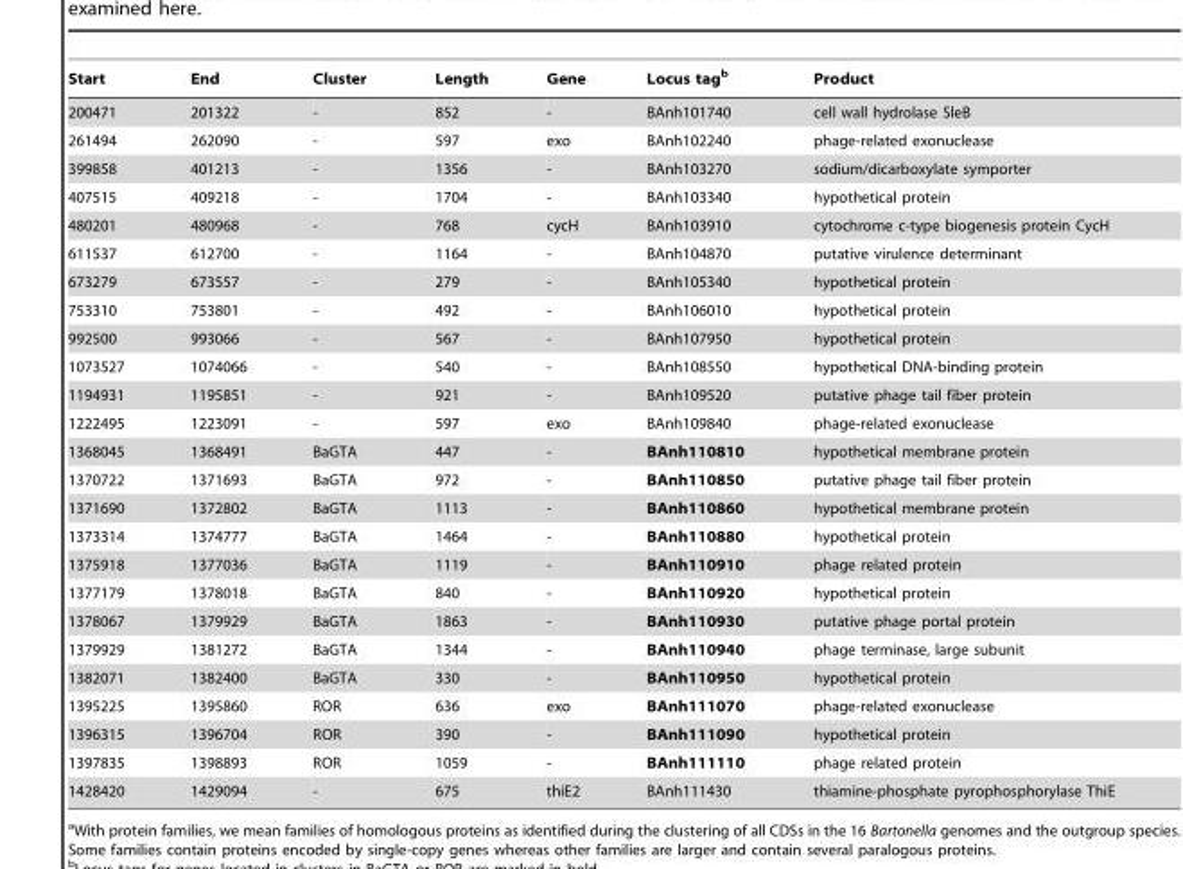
<table><thead><tr><td>Start</td><td>End</td><td>Cluster</td><td>Length</td><td>Gene</td><td>Locus tag<sup>b</sup></td><td>Product</td></tr></thead><tbody><tr><td>200471</td><td>201322</td><td>-</td><td>852</td><td>-</td><td>BAnh101740</td><td>cell wall hydrolase SleB</td></tr><tr><td>261494</td><td>262090</td><td>-</td><td>597</td><td>exo</td><td>BAnh102240</td><td>phage-related exonuclease</td></tr><tr><td>399858</td><td>401213</td><td>-</td><td>1356</td><td>-</td><td>BAnh103270</td><td>sodium/dicarboxylate symporter</td></tr><tr><td>407515</td><td>409218</td><td>-</td><td>1704</td><td>-</td><td>BAnh103340</td><td>hypothetical protein</td></tr><tr><td>480201</td><td>480968</td><td>-</td><td>768</td><td>cycH</td><td>BAnh103910</td><td>cytochrome c-type biogenesis protein CycH</td></tr><tr><td>611537</td><td>612700</td><td>-</td><td>1164</td><td>-</td><td>BAnh104870</td><td>putative virulence determinant</td></tr><tr><td>673279</td><td>673557</td><td>-</td><td>279</td><td>-</td><td>BAnh105340</td><td>hypothetical protein</td></tr><tr><td>753310</td><td>753801</td><td>-</td><td>492</td><td>-</td><td>BAnh106010</td><td>hypothetical protein</td></tr><tr><td>992500</td><td>993066</td><td>-</td><td>567</td><td>-</td><td>BAnh107950</td><td>hypothetical protein</td></tr><tr><td>1073527</td><td>1074066</td><td>-</td><td>540</td><td>-</td><td>BAnh108550</td><td>hypothetical DNA-binding protein</td></tr><tr><td>1194931</td><td>1195851</td><td>-</td><td>921</td><td>-</td><td>BAnh109520</td><td>putative phage tail fiber protein</td></tr><tr><td>1222495</td><td>1223091</td><td>-</td><td>597</td><td>exo</td><td>BAnh109840</td><td>phage-related exonuclease</td></tr><tr><td>1368045</td><td>1368491</td><td>BaGTA</td><td>447</td><td>-</td><td>BAnh110810</td><td>hypothetical membrane protein</td></tr><tr><td>1370722</td><td>1371693</td><td>BaGTA</td><td>972</td><td>-</td><td>BAnh110850</td><td>putative phage tail fiber protein</td></tr><tr><td>1371690</td><td>1372802</td><td>BaGTA</td><td>1113</td><td>-</td><td>BAnh110860</td><td>hypothetical membrane protein</td></tr><tr><td>1373314</td><td>1374777</td><td>BaGTA</td><td>1464</td><td>-</td><td>BAnh110880</td><td>hypothetical protein</td></tr><tr><td>1375918</td><td>1377036</td><td>BaGTA</td><td>1119</td><td>-</td><td>BAnh110910</td><td>phage related protein</td></tr><tr><td>1377179</td><td>1378018</td><td>BaGTA</td><td>840</td><td>-</td><td>BAnh110920</td><td>hypothetical protein</td></tr><tr><td>1378067</td><td>1379929</td><td>BaGTA</td><td>1863</td><td>-</td><td>BAnh110930</td><td>putative phage portal protein</td></tr><tr><td>1379929</td><td>1381272</td><td>BaGTA</td><td>1344</td><td>-</td><td>BAnh110940</td><td>phage terminase, large subunit</td></tr><tr><td>1382071</td><td>1382400</td><td>BaGTA</td><td>330</td><td>-</td><td>BAnh110950</td><td>hypothetical protein</td></tr><tr><td>1395225</td><td>1395860</td><td>ROR</td><td>636</td><td>exo</td><td>BAnh111070</td><td>phage-related exonuclease</td></tr><tr><td>1396315</td><td>1396704</td><td>ROR</td><td>390</td><td>-</td><td>BAnh111090</td><td>hypothetical protein</td></tr><tr><td>1397835</td><td>1398893</td><td>ROR</td><td>1059</td><td>-</td><td>BAnh111110</td><td>phage related protein</td></tr><tr><td>1428420</td><td>1429094</td><td>-</td><td>675</td><td>thiE2</td><td>BAnh111430</td><td>thiamine-phosphate pyrophosphorylase ThiE</td></tr></tbody></table>